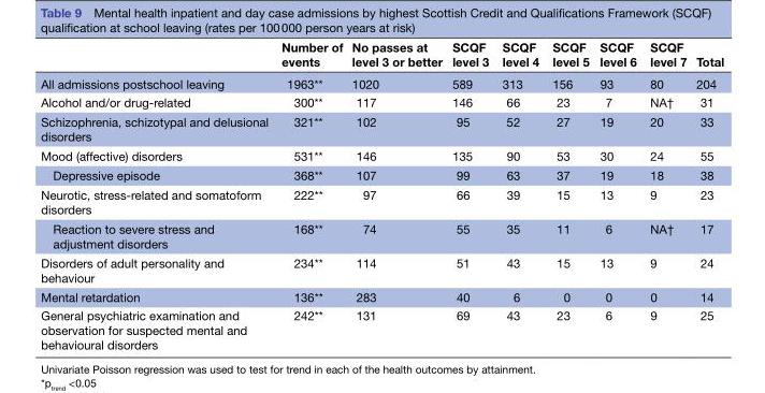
<table><thead><tr><td></td><td>Number of events</td><td>No passes at level 3 or better</td><td>SCQF level 3</td><td>SCQF level 4</td><td>SCQF level 5</td><td>SCQF level 6</td><td>SCQF level 7</td><td>Total</td></tr></thead><tbody><tr><td>All admissions postschool leaving</td><td>1963**</td><td>1020</td><td>589</td><td>313</td><td>156</td><td>93</td><td>80</td><td>204</td></tr><tr><td>Alcohol and/or drug-related</td><td>300**</td><td>117</td><td>146</td><td>66</td><td>23</td><td>7</td><td>NA†</td><td>31</td></tr><tr><td>Schizophrenia, schizotypal and delusional disorders</td><td>321**</td><td>102</td><td>95</td><td>52</td><td>27</td><td>19</td><td>20</td><td>33</td></tr><tr><td>Mood (affective) disorders</td><td>531**</td><td>146</td><td>135</td><td>90</td><td>53</td><td>30</td><td>24</td><td>55</td></tr><tr><td>Depressive episode</td><td>368**</td><td>107</td><td>99</td><td>63</td><td>37</td><td>19</td><td>18</td><td>38</td></tr><tr><td>Neurotic, stress-related and somatoform disorders</td><td>222**</td><td>97</td><td>66</td><td>39</td><td>15</td><td>13</td><td>9</td><td>23</td></tr><tr><td>Reaction to severe stress and adjustment disorders</td><td>168**</td><td>74</td><td>55</td><td>35</td><td>11</td><td>6</td><td>NA†</td><td>17</td></tr><tr><td>Disorders of adult personality and behaviour</td><td>234**</td><td>114</td><td>51</td><td>43</td><td>15</td><td>13</td><td>9</td><td>24</td></tr><tr><td>Mental retardation</td><td>136**</td><td>283</td><td>40</td><td>6</td><td>0</td><td>0</td><td>0</td><td>14</td></tr><tr><td>General psychiatric examination and observation for suspected mental and behavioural disorders</td><td>242**</td><td>131</td><td>69</td><td>43</td><td>23</td><td>6</td><td>9</td><td>25</td></tr></tbody></table>